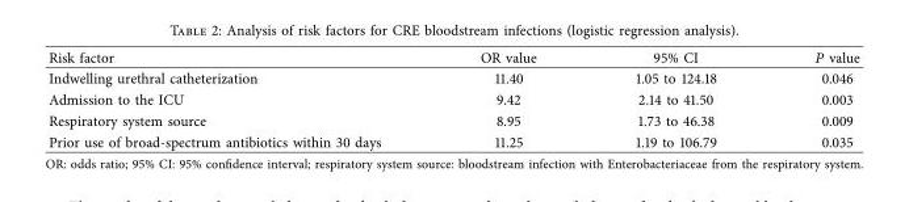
<table><thead><tr><td>Risk factor</td><td>OR value</td><td>95% CI</td><td>P value</td></tr></thead><tbody><tr><td>Indwelling urethral catheterization</td><td>11.40</td><td>1.05 to 124.18</td><td>0.046</td></tr><tr><td>Admission to the ICU</td><td>9.42</td><td>2.14 to 41.50</td><td>0.003</td></tr><tr><td>Respiratory system source</td><td>8.95</td><td>1.73 to 46.38</td><td>0.009</td></tr><tr><td>Prior use of broad-spectrum antibiotics within 30 days</td><td>11.25</td><td>1.19 to 106.79</td><td>0.035</td></tr></tbody></table>